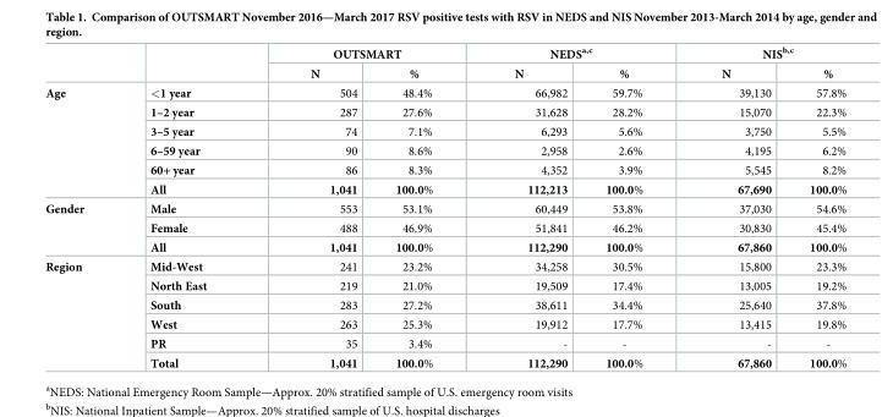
<table><thead><tr><td rowspan="2"></td><td rowspan="2"></td><td colspan="2">OUTSMART</td><td colspan="2">NEDS<sup>a,c</sup></td><td colspan="2">NIS<sup>b,c</sup></td></tr><tr><td>N</td><td>%</td><td>N</td><td>%</td><td>N</td><td>%</td></tr></thead><tbody><tr><td rowspan="6">Age</td><td>&lt;1 year</td><td>504</td><td>48.4%</td><td>66,982</td><td>59.7%</td><td>39,130</td><td>57.8%</td></tr><tr><td>1–2 year</td><td>287</td><td>27.6%</td><td>31,628</td><td>28.2%</td><td>15,070</td><td>22.3%</td></tr><tr><td>3–5 year</td><td>74</td><td>7.1%</td><td>6,293</td><td>5.6%</td><td>3,750</td><td>5.5%</td></tr><tr><td>6–59 year</td><td>90</td><td>8.6%</td><td>2,958</td><td>2.6%</td><td>4,195</td><td>6.2%</td></tr><tr><td>60+ year</td><td>86</td><td>8.3%</td><td>4,352</td><td>3.9%</td><td>5,545</td><td>8.2%</td></tr><tr><td>All</td><td>1,041</td><td>100.0%</td><td>112,213</td><td>100.0%</td><td>67,690</td><td>100.0%</td></tr><tr><td rowspan="3">Gender</td><td>Male</td><td>553</td><td>53.1%</td><td>60,449</td><td>53.8%</td><td>37,030</td><td>54.6%</td></tr><tr><td>Female</td><td>488</td><td>46.9%</td><td>51,841</td><td>46.2%</td><td>30,830</td><td>45.4%</td></tr><tr><td>All</td><td>1,041</td><td>100.0%</td><td>112,290</td><td>100.0%</td><td>67,860</td><td>100.0%</td></tr><tr><td rowspan="6">Region</td><td>Mid-West</td><td>241</td><td>23.2%</td><td>34,258</td><td>30.5%</td><td>15,800</td><td>23.3%</td></tr><tr><td>North East</td><td>219</td><td>21.0%</td><td>19,509</td><td>17.4%</td><td>13,005</td><td>19.2%</td></tr><tr><td>South</td><td>283</td><td>27.2%</td><td>38,611</td><td>34.4%</td><td>25,640</td><td>37.8%</td></tr><tr><td>West</td><td>263</td><td>25.3%</td><td>19,912</td><td>17.7%</td><td>13,415</td><td>19.8%</td></tr><tr><td>PR</td><td>35</td><td>3.4%</td><td>-</td><td>-</td><td>-</td><td>-</td></tr><tr><td>Total</td><td>1,041</td><td>100.0%</td><td>112,290</td><td>100.0%</td><td>67,860</td><td>100.0%</td></tr></tbody></table>